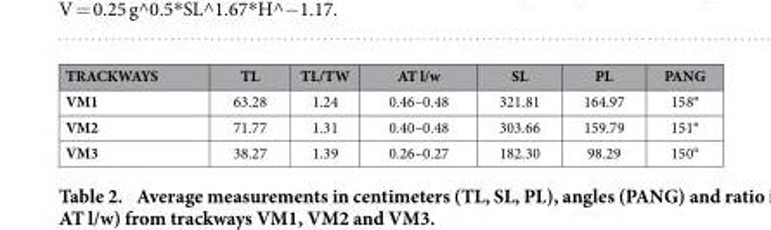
<table><thead><tr><td>TRACKWAYS</td><td>TL</td><td>TL/TW</td><td>AT l/w</td><td>SL</td><td>PL</td><td>PANG</td></tr></thead><tbody><tr><td>VM1</td><td>63.28</td><td>1.24</td><td>0.46–0.48</td><td>321.81</td><td>164.97</td><td>158°</td></tr><tr><td>VM2</td><td>71.77</td><td>1.31</td><td>0.40–0.48</td><td>303.66</td><td>159.79</td><td>151°</td></tr><tr><td>VM3</td><td>38.27</td><td>1.39</td><td>0.26–0.27</td><td>182.30</td><td>98.29</td><td>150°</td></tr></tbody></table>